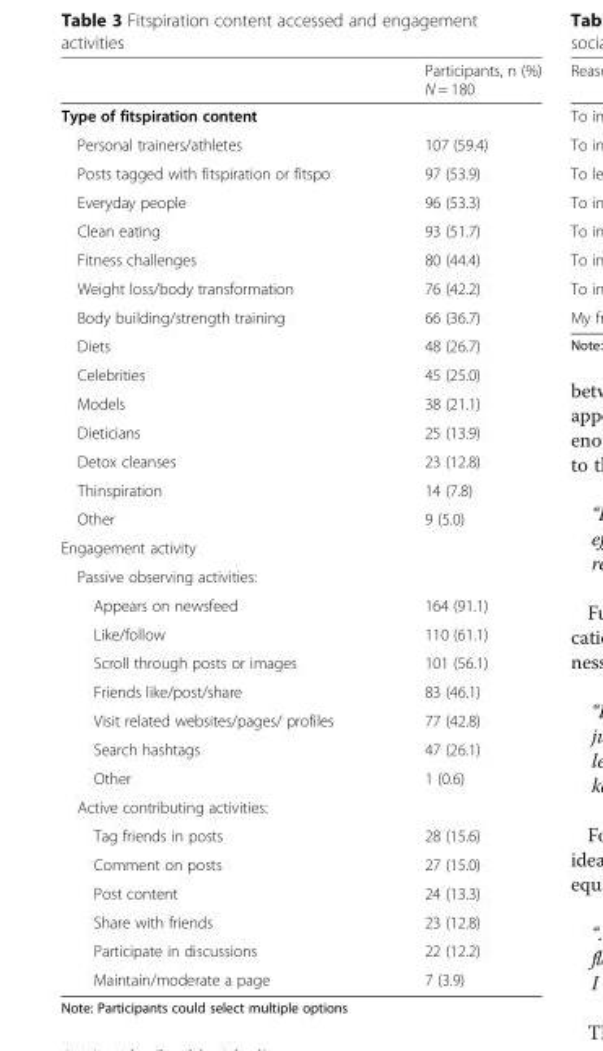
<table><thead><tr><td></td><td>Participants, n (%) N = 180</td></tr></thead><tbody><tr><td colspan="2">Type of fitspiration content</td></tr><tr><td>Personal trainers/athletes</td><td>107 (59.4)</td></tr><tr><td>Posts tagged with fitspiration or fitspo</td><td>97 (53.9)</td></tr><tr><td>Everyday people</td><td>96 (53.3)</td></tr><tr><td>Clean eating</td><td>93 (51.7)</td></tr><tr><td>Fitness challenges</td><td>80 (44.4)</td></tr><tr><td>Weight loss/body transformation</td><td>76 (42.2)</td></tr><tr><td>Body building/strength training</td><td>66 (36.7)</td></tr><tr><td>Diets</td><td>48 (26.7)</td></tr><tr><td>Celebrities</td><td>45 (25.0)</td></tr><tr><td>Models</td><td>38 (21.1)</td></tr><tr><td>Dieticians</td><td>25 (13.9)</td></tr><tr><td>Detox cleanses</td><td>23 (12.8)</td></tr><tr><td>Thinspiration</td><td>14 (7.8)</td></tr><tr><td>Other</td><td>9 (5.0)</td></tr><tr><td colspan="2">Engagement activity</td></tr><tr><td colspan="2">Passive observing activities:</td></tr><tr><td>Appears on newsfeed</td><td>164 (91.1)</td></tr><tr><td>Like/follow</td><td>110 (61.1)</td></tr><tr><td>Scroll through posts or images</td><td>101 (56.1)</td></tr><tr><td>Friends like/post/share</td><td>83 (46.1)</td></tr><tr><td>Visit related websites/pages/ profiles</td><td>77 (42.8)</td></tr><tr><td>Search hashtags</td><td>47 (26.1)</td></tr><tr><td>Other</td><td>1 (0.6)</td></tr><tr><td colspan="2">Active contributing activities:</td></tr><tr><td>Tag friends in posts</td><td>28 (15.6)</td></tr><tr><td>Comment on posts</td><td>27 (15.0)</td></tr><tr><td>Post content</td><td>24 (13.3)</td></tr><tr><td>Share with friends</td><td>23 (12.8)</td></tr><tr><td>Participate in discussions</td><td>22 (12.2)</td></tr><tr><td>Maintain/moderate a page</td><td>7 (3.9)</td></tr></tbody></table>